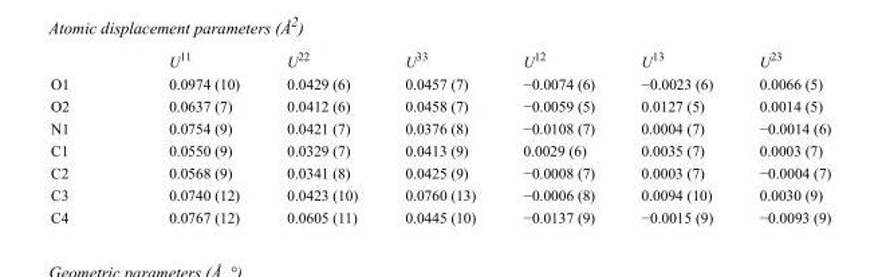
<table><thead><tr><td></td><td>U<sup>11</sup></td><td>U<sup>22</sup></td><td>U<sup>33</sup></td><td>U<sup>12</sup></td><td>U<sup>13</sup></td><td>U<sup>23</sup></td></tr></thead><tbody><tr><td>O1</td><td>0.0974 (10)</td><td>0.0429 (6)</td><td>0.0457 (7)</td><td>−0.0074 (6)</td><td>−0.0023 (6)</td><td>0.0066 (5)</td></tr><tr><td>O2</td><td>0.0637 (7)</td><td>0.0412 (6)</td><td>0.0458 (7)</td><td>−0.0059 (5)</td><td>0.0127 (5)</td><td>0.0014 (5)</td></tr><tr><td>N1</td><td>0.0754 (9)</td><td>0.0421 (7)</td><td>0.0376 (8)</td><td>−0.0108 (7)</td><td>0.0004 (7)</td><td>−0.0014 (6)</td></tr><tr><td>C1</td><td>0.0550 (9)</td><td>0.0329 (7)</td><td>0.0413 (9)</td><td>0.0029 (6)</td><td>0.0035 (7)</td><td>0.0003 (7)</td></tr><tr><td>C2</td><td>0.0568 (9)</td><td>0.0341 (8)</td><td>0.0425 (9)</td><td>−0.0008 (7)</td><td>0.0003 (7)</td><td>−0.0004 (7)</td></tr><tr><td>C3</td><td>0.0740 (12)</td><td>0.0423 (10)</td><td>0.0760 (13)</td><td>−0.0006 (8)</td><td>0.0094 (10)</td><td>0.0030 (9)</td></tr><tr><td>C4</td><td>0.0767 (12)</td><td>0.0605 (11)</td><td>0.0445 (10)</td><td>−0.0137 (9)</td><td>−0.0015 (9)</td><td>−0.0093 (9)</td></tr></tbody></table>